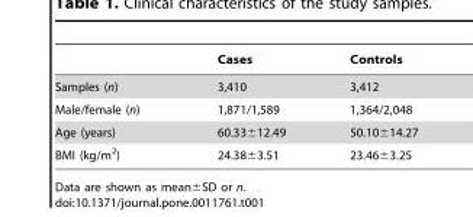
<table><thead><tr><td></td><td>Cases</td><td>Controls</td></tr></thead><tbody><tr><td>Samples (n)</td><td>3,410</td><td>3,412</td></tr><tr><td>Male/female (n)</td><td>1,871/1,589</td><td>1,364/2,048</td></tr><tr><td>Age (years)</td><td>60.33±12.49</td><td>50.10±14.27</td></tr><tr><td>BMI (kg/m<sup>2</sup>)</td><td>24.38±3.51</td><td>23.46±3.25</td></tr></tbody></table>